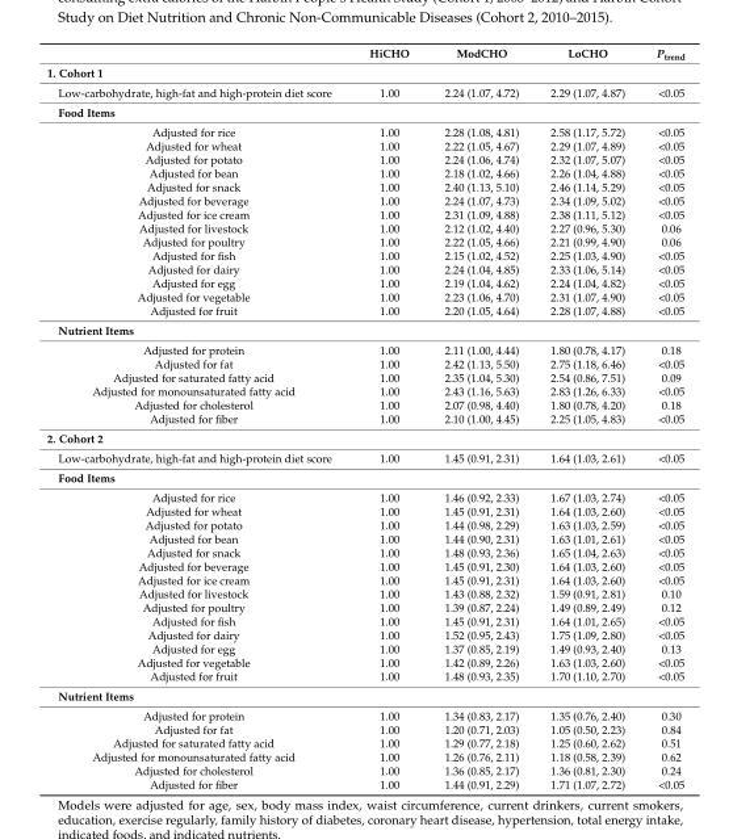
<table><thead><tr><td></td><td>HiCHO</td><td>ModCHO</td><td>LoCHO</td><td>P<sub>trend</sub></td></tr></thead><tbody><tr><td colspan="5">1. Cohort 1</td></tr><tr><td>Low-carbohydrate, high-fat and high-protein diet score</td><td>1.00</td><td>2.24 (1.07, 4.72)</td><td>2.29 (1.07, 4.87)</td><td>&lt;0.05</td></tr><tr><td colspan="5">Food Items</td></tr><tr><td>Adjusted for rice</td><td>1.00</td><td>2.28 (1.08, 4.81)</td><td>2.58 (1.17, 5.72)</td><td>&lt;0.05</td></tr><tr><td>Adjusted for wheat</td><td>1.00</td><td>2.22 (1.05, 4.67)</td><td>2.29 (1.07, 4.89)</td><td>&lt;0.05</td></tr><tr><td>Adjusted for potato</td><td>1.00</td><td>2.24 (1.06, 4.74)</td><td>2.32 (1.07, 5.07)</td><td>&lt;0.05</td></tr><tr><td>Adjusted for bean</td><td>1.00</td><td>2.18 (1.02, 4.66)</td><td>2.26 (1.04, 4.88)</td><td>&lt;0.05</td></tr><tr><td>Adjusted for snack</td><td>1.00</td><td>2.40 (1.13, 5.10)</td><td>2.46 (1.14, 5.29)</td><td>&lt;0.05</td></tr><tr><td>Adjusted for beverage</td><td>1.00</td><td>2.24 (1.07, 4.73)</td><td>2.34 (1.09, 5.02)</td><td>&lt;0.05</td></tr><tr><td>Adjusted for ice cream</td><td>1.00</td><td>2.31 (1.09, 4.88)</td><td>2.38 (1.11, 5.12)</td><td>&lt;0.05</td></tr><tr><td>Adjusted for livestock</td><td>1.00</td><td>2.12 (1.02, 4.40)</td><td>2.27 (0.96, 5.30)</td><td>0.06</td></tr><tr><td>Adjusted for poultry</td><td>1.00</td><td>2.22 (1.05, 4.66)</td><td>2.21 (0.99, 4.90)</td><td>0.06</td></tr><tr><td>Adjusted for fish</td><td>1.00</td><td>2.15 (1.02, 4.52)</td><td>2.25 (1.03, 4.90)</td><td>&lt;0.05</td></tr><tr><td>Adjusted for dairy</td><td>1.00</td><td>2.24 (1.04, 4.85)</td><td>2.33 (1.06, 5.14)</td><td>&lt;0.05</td></tr><tr><td>Adjusted for egg</td><td>1.00</td><td>2.19 (1.04, 4.62)</td><td>2.24 (1.04, 4.82)</td><td>&lt;0.05</td></tr><tr><td>Adjusted for vegetable</td><td>1.00</td><td>2.23 (1.06, 4.70)</td><td>2.31 (1.07, 4.90)</td><td>&lt;0.05</td></tr><tr><td>Adjusted for fruit</td><td>1.00</td><td>2.20 (1.05, 4.64)</td><td>2.28 (1.07, 4.88)</td><td>&lt;0.05</td></tr><tr><td colspan="5">Nutrient Items</td></tr><tr><td>Adjusted for protein</td><td>1.00</td><td>2.11 (1.00, 4.44)</td><td>1.80 (0.78, 4.17)</td><td>0.18</td></tr><tr><td>Adjusted for fat</td><td>1.00</td><td>2.42 (1.13, 5.50)</td><td>2.75 (1.18, 6.46)</td><td>&lt;0.05</td></tr><tr><td>Adjusted for saturated fatty acid</td><td>1.00</td><td>2.35 (1.04, 5.30)</td><td>2.54 (0.86, 7.51)</td><td>0.09</td></tr><tr><td>Adjusted for monounsaturated fatty acid</td><td>1.00</td><td>2.43 (1.16, 5.63)</td><td>2.83 (1.26, 6.33)</td><td>&lt;0.05</td></tr><tr><td>Adjusted for cholesterol</td><td>1.00</td><td>2.07 (0.98, 4.40)</td><td>1.80 (0.78, 4.20)</td><td>0.18</td></tr><tr><td>Adjusted for fiber</td><td>1.00</td><td>2.10 (1.00, 4.45)</td><td>2.25 (1.05, 4.83)</td><td>&lt;0.05</td></tr><tr><td colspan="5">2. Cohort 2</td></tr><tr><td>Low-carbohydrate, high-fat and high-protein diet score</td><td>1.00</td><td>1.45 (0.91, 2.31)</td><td>1.64 (1.03, 2.61)</td><td>&lt;0.05</td></tr><tr><td colspan="5">Food Items</td></tr><tr><td>Adjusted for rice</td><td>1.00</td><td>1.46 (0.92, 2.33)</td><td>1.67 (1.03, 2.74)</td><td>&lt;0.05</td></tr><tr><td>Adjusted for wheat</td><td>1.00</td><td>1.45 (0.91, 2.31)</td><td>1.64 (1.03, 2.60)</td><td>&lt;0.05</td></tr><tr><td>Adjusted for potato</td><td>1.00</td><td>1.44 (0.98, 2.29)</td><td>1.63 (1.03, 2.59)</td><td>&lt;0.05</td></tr><tr><td>Adjusted for bean</td><td>1.00</td><td>1.44 (0.90, 2.31)</td><td>1.63 (1.01, 2.61)</td><td>&lt;0.05</td></tr><tr><td>Adjusted for snack</td><td>1.00</td><td>1.48 (0.93, 2.36)</td><td>1.65 (1.04, 2.63)</td><td>&lt;0.05</td></tr><tr><td>Adjusted for beverage</td><td>1.00</td><td>1.45 (0.91, 2.30)</td><td>1.64 (1.03, 2.60)</td><td>&lt;0.05</td></tr><tr><td>Adjusted for ice cream</td><td>1.00</td><td>1.45 (0.91, 2.31)</td><td>1.64 (1.03, 2.60)</td><td>&lt;0.05</td></tr><tr><td>Adjusted for livestock</td><td>1.00</td><td>1.43 (0.88, 2.32)</td><td>1.59 (0.91, 2.81)</td><td>0.10</td></tr><tr><td>Adjusted for poultry</td><td>1.00</td><td>1.39 (0.87, 2.24)</td><td>1.49 (0.89, 2.49)</td><td>0.12</td></tr><tr><td>Adjusted for fish</td><td>1.00</td><td>1.45 (0.91, 2.31)</td><td>1.64 (1.01, 2.65)</td><td>&lt;0.05</td></tr><tr><td>Adjusted for dairy</td><td>1.00</td><td>1.52 (0.95, 2.43)</td><td>1.75 (1.09, 2.80)</td><td>&lt;0.05</td></tr><tr><td>Adjusted for egg</td><td>1.00</td><td>1.37 (0.85, 2.19)</td><td>1.49 (0.93, 2.40)</td><td>0.13</td></tr><tr><td>Adjusted for vegetable</td><td>1.00</td><td>1.42 (0.89, 2.26)</td><td>1.63 (1.03, 2.60)</td><td>&lt;0.05</td></tr><tr><td>Adjusted for fruit</td><td>1.00</td><td>1.48 (0.93, 2.35)</td><td>1.70 (1.10, 2.70)</td><td>&lt;0.05</td></tr><tr><td colspan="5">Nutrient Items</td></tr><tr><td>Adjusted for protein</td><td>1.00</td><td>1.34 (0.83, 2.17)</td><td>1.35 (0.76, 2.40)</td><td>0.30</td></tr><tr><td>Adjusted for fat</td><td>1.00</td><td>1.20 (0.71, 2.03)</td><td>1.05 (0.50, 2.23)</td><td>0.84</td></tr><tr><td>Adjusted for saturated fatty acid</td><td>1.00</td><td>1.29 (0.77, 2.18)</td><td>1.25 (0.60, 2.62)</td><td>0.51</td></tr><tr><td>Adjusted for monounsaturated fatty acid</td><td>1.00</td><td>1.26 (0.76, 2.11)</td><td>1.18 (0.58, 2.39)</td><td>0.62</td></tr><tr><td>Adjusted for cholesterol</td><td>1.00</td><td>1.36 (0.85, 2.17)</td><td>1.36 (0.81, 2.30)</td><td>0.24</td></tr><tr><td>Adjusted for fiber</td><td>1.00</td><td>1.44 (0.91, 2.29)</td><td>1.71 (1.07, 2.72)</td><td>&lt;0.05</td></tr></tbody></table>